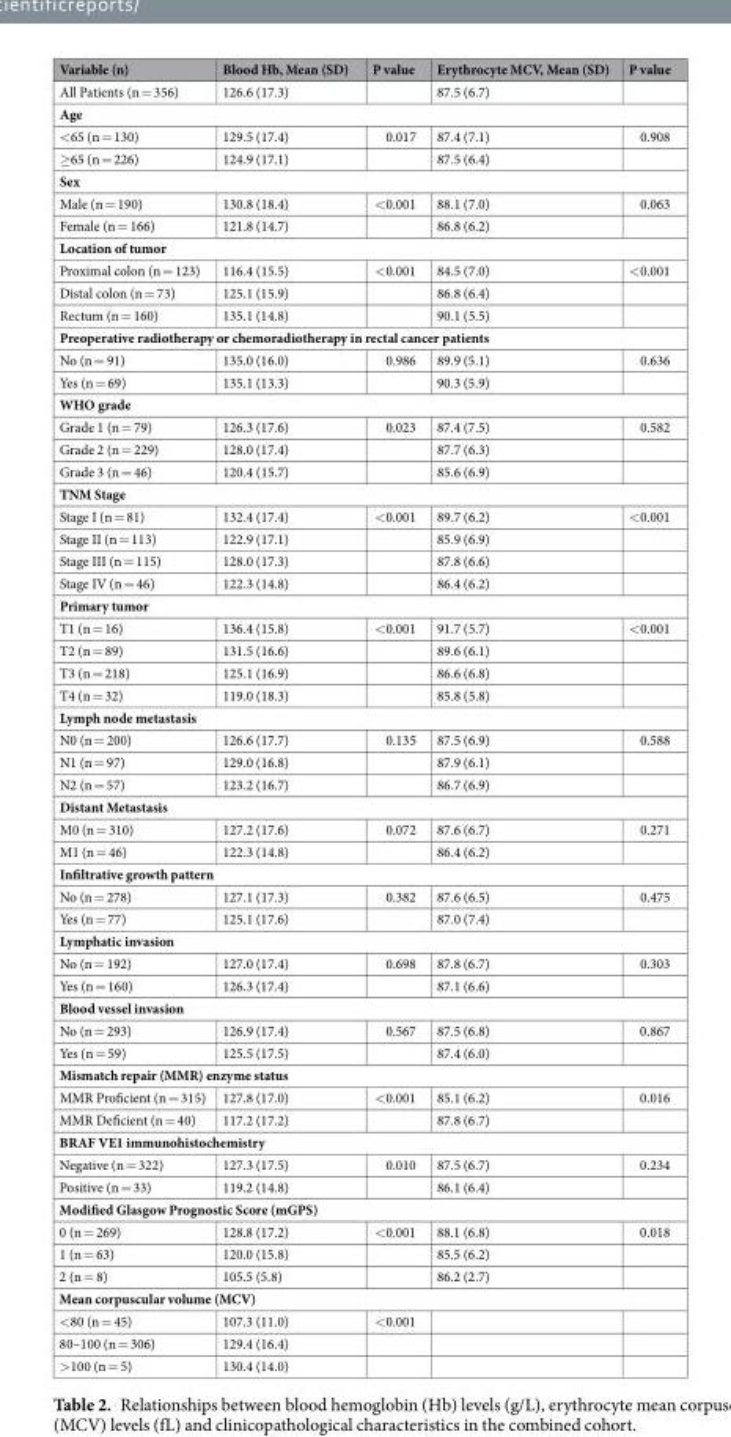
<table><thead><tr><td>Variable (n)</td><td>Blood Hb, Mean (SD)</td><td>P value</td><td>Erythrocyte MCV, Mean (SD)</td><td>P value</td></tr></thead><tbody><tr><td>All Patients (n = 356)</td><td>126.6 (17.3)</td><td></td><td>87.5 (6.7)</td><td></td></tr><tr><td colspan="5">Age</td></tr><tr><td>&lt;65 (n = 130)</td><td>129.5 (17.4)</td><td>0.017</td><td>87.4 (7.1)</td><td>0.908</td></tr><tr><td>≥65 (n = 226)</td><td>124.9 (17.1)</td><td></td><td>87.5 (6.4)</td><td></td></tr><tr><td colspan="5">Sex</td></tr><tr><td>Male (n = 190)</td><td>130.8 (18.4)</td><td>&lt;0.001</td><td>88.1 (7.0)</td><td>0.063</td></tr><tr><td>Female (n = 166)</td><td>121.8 (14.7)</td><td></td><td>86.8 (6.2)</td><td></td></tr><tr><td colspan="5">Location of tumor</td></tr><tr><td>Proximal colon (n = 123)</td><td>116.4 (15.5)</td><td>&lt;0.001</td><td>84.5 (7.0)</td><td>&lt;0.001</td></tr><tr><td>Distal colon (n = 73)</td><td>125.1 (15.9)</td><td></td><td>86.8 (6.4)</td><td></td></tr><tr><td>Rectum (n = 160)</td><td>135.1 (14.8)</td><td></td><td>90.1 (5.5)</td><td></td></tr><tr><td colspan="5">Preoperative radiotherapy or chemoradiotherapy in rectal cancer patients</td></tr><tr><td>No (n = 91)</td><td>135.0 (16.0)</td><td>0.986</td><td>89.9 (5.1)</td><td>0.636</td></tr><tr><td>Yes (n = 69)</td><td>135.1 (13.3)</td><td></td><td>90.3 (5.9)</td><td></td></tr><tr><td colspan="5">WHO grade</td></tr><tr><td>Grade 1 (n = 79)</td><td>126.3 (17.6)</td><td>0.023</td><td>87.4 (7.5)</td><td>0.582</td></tr><tr><td>Grade 2 (n = 229)</td><td>128.0 (17.4)</td><td></td><td>87.7 (6.3)</td><td></td></tr><tr><td>Grade 3 (n = 46)</td><td>120.4 (15.7)</td><td></td><td>85.6 (6.9)</td><td></td></tr><tr><td colspan="5">TNM Stage</td></tr><tr><td>Stage I (n = 81)</td><td>132.4 (17.4)</td><td>&lt;0.001</td><td>89.7 (6.2)</td><td>&lt;0.001</td></tr><tr><td>Stage II (n = 113)</td><td>122.9 (17.1)</td><td></td><td>85.9 (6.9)</td><td></td></tr><tr><td>Stage III (n = 115)</td><td>128.0 (17.3)</td><td></td><td>87.8 (6.6)</td><td></td></tr><tr><td>Stage IV (n = 46)</td><td>122.3 (14.8)</td><td></td><td>86.4 (6.2)</td><td></td></tr><tr><td colspan="5">Primary tumor</td></tr><tr><td>T1 (n = 16)</td><td>136.4 (15.8)</td><td>&lt;0.001</td><td>91.7 (5.7)</td><td>&lt;0.001</td></tr><tr><td>T2 (n = 89)</td><td>131.5 (16.6)</td><td></td><td>89.6 (6.1)</td><td></td></tr><tr><td>T3 (n = 218)</td><td>125.1 (16.9)</td><td></td><td>86.6 (6.8)</td><td></td></tr><tr><td>T4 (n = 32)</td><td>119.0 (18.3)</td><td></td><td>85.8 (5.8)</td><td></td></tr><tr><td colspan="5">Lymph node metastasis</td></tr><tr><td>N0 (n = 200)</td><td>126.6 (17.7)</td><td>0.135</td><td>87.5 (6.9)</td><td>0.588</td></tr><tr><td>N1 (n = 97)</td><td>129.0 (16.8)</td><td></td><td>87.9 (6.1)</td><td></td></tr><tr><td>N2 (n = 57)</td><td>123.2 (16.7)</td><td></td><td>86.7 (6.9)</td><td></td></tr><tr><td colspan="5">Distant Metastasis</td></tr><tr><td>M0 (n = 310)</td><td>127.2 (17.6)</td><td>0.072</td><td>87.6 (6.7)</td><td>0.271</td></tr><tr><td>M1 (n = 46)</td><td>122.3 (14.8)</td><td></td><td>86.4 (6.2)</td><td></td></tr><tr><td colspan="5">Infiltrative growth pattern</td></tr><tr><td>No (n = 278)</td><td>127.1 (17.3)</td><td>0.382</td><td>87.6 (6.5)</td><td>0.475</td></tr><tr><td>Yes (n = 77)</td><td>125.1 (17.6)</td><td></td><td>87.0 (7.4)</td><td></td></tr><tr><td colspan="5">Lymphatic invasion</td></tr><tr><td>No (n = 192)</td><td>127.0 (17.4)</td><td>0.698</td><td>87.8 (6.7)</td><td>0.303</td></tr><tr><td>Yes (n = 160)</td><td>126.3 (17.4)</td><td></td><td>87.1 (6.6)</td><td></td></tr><tr><td colspan="5">Blood vessel invasion</td></tr><tr><td>No (n = 293)</td><td>126.9 (17.4)</td><td>0.567</td><td>87.5 (6.8)</td><td>0.867</td></tr><tr><td>Yes (n = 59)</td><td>125.5 (17.5)</td><td></td><td>87.4 (6.0)</td><td></td></tr><tr><td colspan="5">Mismatch repair (MMR) enzyme status</td></tr><tr><td>MMR Proficient (n = 315)</td><td>127.8 (17.0)</td><td>&lt;0.001</td><td>85.1 (6.2)</td><td>0.016</td></tr><tr><td>MMR Deficient (n = 40)</td><td>117.2 (17.2)</td><td></td><td>87.8 (6.7)</td><td></td></tr><tr><td colspan="5">BRAF VE1 immunohistochemistry</td></tr><tr><td>Negative (n = 322)</td><td>127.3 (17.5)</td><td>0.010</td><td>87.5 (6.7)</td><td>0.234</td></tr><tr><td>Positive (n = 33)</td><td>119.2 (14.8)</td><td></td><td>86.1 (6.4)</td><td></td></tr><tr><td colspan="5">Modified Glasgow Prognostic Score (mGPS)</td></tr><tr><td>0 (n = 269)</td><td>128.8 (17.2)</td><td>&lt;0.001</td><td>88.1 (6.8)</td><td>0.018</td></tr><tr><td>1 (n = 63)</td><td>120.0 (15.8)</td><td></td><td>85.5 (6.2)</td><td></td></tr><tr><td>2 (n = 8)</td><td>105.5 (5.8)</td><td></td><td>86.2 (2.7)</td><td></td></tr><tr><td colspan="5">Mean corpuscular volume (MCV)</td></tr><tr><td>&lt;80 (n = 45)</td><td>107.3 (11.0)</td><td>&lt;0.001</td><td></td><td></td></tr><tr><td>80–100 (n = 306)</td><td>129.4 (16.4)</td><td></td><td></td><td></td></tr><tr><td>&gt;100 (n = 5)</td><td>130.4 (14.0)</td><td></td><td></td><td></td></tr></tbody></table>